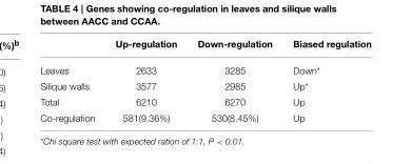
<table><thead><tr><td></td><td>Up-regulation</td><td>Down-regulation</td><td>Biased regulation</td></tr></thead><tbody><tr><td>Leaves</td><td>2633</td><td>3285</td><td>Down*</td></tr><tr><td>Silique walls</td><td>3577</td><td>2985</td><td>Up*</td></tr><tr><td>Total</td><td>6210</td><td>6270</td><td>Up</td></tr><tr><td>Co-regulation</td><td>581(9.36%)</td><td>530(8.45%)</td><td>Up</td></tr></tbody></table>